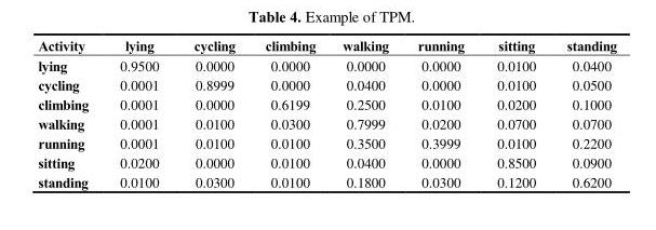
<table><thead><tr><td>Activity</td><td>lying</td><td>cycling</td><td>climbing</td><td>walking</td><td>running</td><td>sitting</td><td>standing</td></tr></thead><tbody><tr><td>lying</td><td>0.9500</td><td>0.0000</td><td>0.0000</td><td>0.0000</td><td>0.0000</td><td>0.0100</td><td>0.0400</td></tr><tr><td>cycling</td><td>0.0001</td><td>0.8999</td><td>0.0000</td><td>0.0400</td><td>0.0000</td><td>0.0100</td><td>0.0500</td></tr><tr><td>climbing</td><td>0.0001</td><td>0.0000</td><td>0.6199</td><td>0.2500</td><td>0.0100</td><td>0.0200</td><td>0.1000</td></tr><tr><td>walking</td><td>0.0001</td><td>0.0100</td><td>0.0300</td><td>0.7999</td><td>0.0200</td><td>0.0700</td><td>0.0700</td></tr><tr><td>running</td><td>0.0001</td><td>0.0100</td><td>0.0100</td><td>0.3500</td><td>0.3999</td><td>0.0100</td><td>0.2200</td></tr><tr><td>sitting</td><td>0.0200</td><td>0.0000</td><td>0.0100</td><td>0.0400</td><td>0.0000</td><td>0.8500</td><td>0.0900</td></tr><tr><td>standing</td><td>0.0100</td><td>0.0300</td><td>0.0100</td><td>0.1800</td><td>0.0300</td><td>0.1200</td><td>0.6200</td></tr></tbody></table>